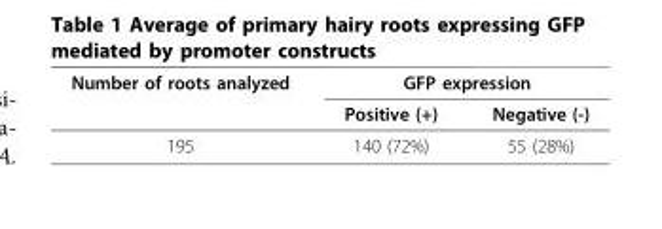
<table><thead><tr><td rowspan="2">Number of roots analyzed</td><td colspan="2">GFP expression</td></tr><tr><td>Positive (+)</td><td>Negative (-)</td></tr></thead><tbody><tr><td>195</td><td>140 (72%)</td><td>55 (28%)</td></tr></tbody></table>